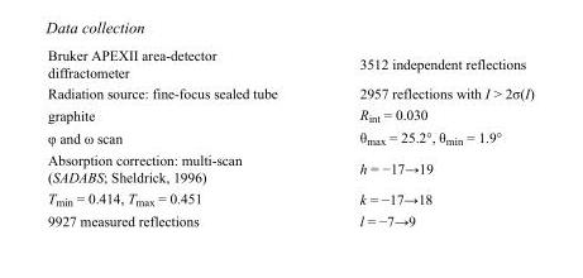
<table><tbody><tr><td>Bruker APEXII area-detector diffractometer</td><td>3512 independent reflections</td></tr><tr><td>Radiation source: fine-focus sealed tube</td><td>2957 reflections with I &gt; 2σ(I)</td></tr><tr><td>graphite</td><td>R<sub>int</sub> = 0.030</td></tr><tr><td>φ and ω scan</td><td>θ<sub>max</sub> = 25.2°, θ<sub>min</sub> = 1.9°</td></tr><tr><td>Absorption correction: multi-scan (SADABS; Sheldrick, 1996)</td><td>h = −17→19</td></tr><tr><td>T<sub>min</sub> = 0.414, T<sub>max</sub> = 0.451</td><td>k = −17→18</td></tr><tr><td>9927 measured reflections</td><td>l = −7→9</td></tr></tbody></table>